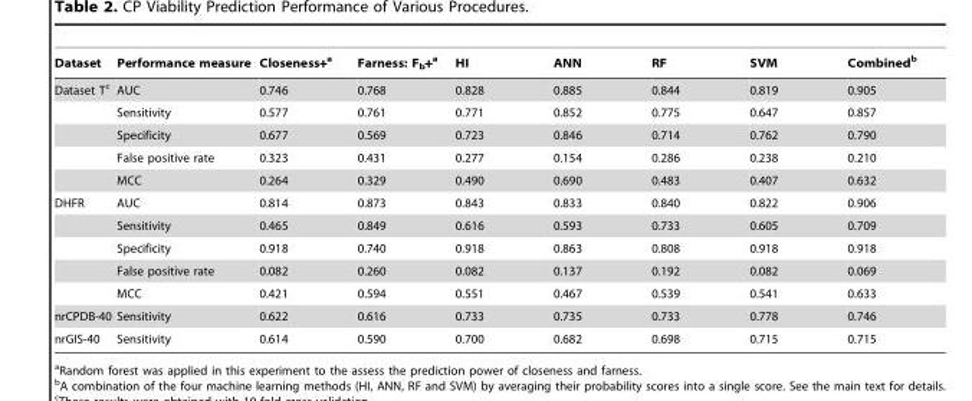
<table><thead><tr><td>Dataset</td><td>Performance measure</td><td>Closeness+<sup>a</sup></td><td>Farness: F<sub>b</sub>+<sup>a</sup></td><td>HI</td><td>ANN</td><td>RF</td><td>SVM</td><td>Combined<sup>b</sup></td></tr></thead><tbody><tr><td rowspan="5">Dataset T<sup>c</sup></td><td>AUC</td><td>0.746</td><td>0.768</td><td>0.828</td><td>0.885</td><td>0.844</td><td>0.819</td><td>0.905</td></tr><tr><td>Sensitivity</td><td>0.577</td><td>0.761</td><td>0.771</td><td>0.852</td><td>0.775</td><td>0.647</td><td>0.857</td></tr><tr><td>Specificity</td><td>0.677</td><td>0.569</td><td>0.723</td><td>0.846</td><td>0.714</td><td>0.762</td><td>0.790</td></tr><tr><td>False positive rate</td><td>0.323</td><td>0.431</td><td>0.277</td><td>0.154</td><td>0.286</td><td>0.238</td><td>0.210</td></tr><tr><td>MCC</td><td>0.264</td><td>0.329</td><td>0.490</td><td>0.690</td><td>0.483</td><td>0.407</td><td>0.632</td></tr><tr><td rowspan="5">DHFR</td><td>AUC</td><td>0.814</td><td>0.873</td><td>0.843</td><td>0.833</td><td>0.840</td><td>0.822</td><td>0.906</td></tr><tr><td>Sensitivity</td><td>0.465</td><td>0.849</td><td>0.616</td><td>0.593</td><td>0.733</td><td>0.605</td><td>0.709</td></tr><tr><td>Specificity</td><td>0.918</td><td>0.740</td><td>0.918</td><td>0.863</td><td>0.808</td><td>0.918</td><td>0.918</td></tr><tr><td>False positive rate</td><td>0.082</td><td>0.260</td><td>0.082</td><td>0.137</td><td>0.192</td><td>0.082</td><td>0.069</td></tr><tr><td>MCC</td><td>0.421</td><td>0.594</td><td>0.551</td><td>0.467</td><td>0.539</td><td>0.541</td><td>0.633</td></tr><tr><td>nrCPDB-40</td><td>Sensitivity</td><td>0.622</td><td>0.616</td><td>0.733</td><td>0.735</td><td>0.733</td><td>0.778</td><td>0.746</td></tr><tr><td>nrGIS-40</td><td>Sensitivity</td><td>0.614</td><td>0.590</td><td>0.700</td><td>0.682</td><td>0.698</td><td>0.715</td><td>0.715</td></tr></tbody></table>